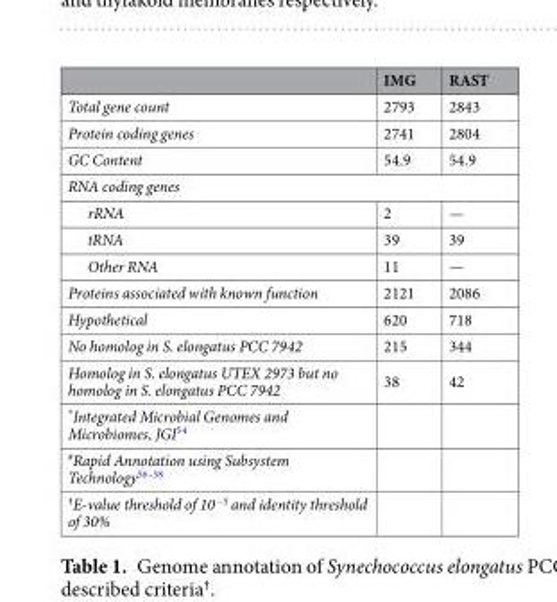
<table><thead><tr><td></td><td>IMG</td><td>RAST</td></tr></thead><tbody><tr><td>Total gene count</td><td>2793</td><td>2843</td></tr><tr><td>Protein coding genes</td><td>2741</td><td>2804</td></tr><tr><td>GC Content</td><td>54.9</td><td>54.9</td></tr><tr><td colspan="3">RNA coding genes</td></tr><tr><td>rRNA</td><td>2</td><td>—</td></tr><tr><td>tRNA</td><td>39</td><td>39</td></tr><tr><td>Other RNA</td><td>11</td><td>—</td></tr><tr><td>Proteins associated with known function</td><td>2121</td><td>2086</td></tr><tr><td>Hypothetical</td><td>620</td><td>718</td></tr><tr><td>No homolog in S. elongatus PCC 7942</td><td>215</td><td>344</td></tr><tr><td>Homolog in S. elongatus UTEX 2973 but no homolog in S. elongatus PCC 7942</td><td>38</td><td>42</td></tr><tr><td colspan="3">*Integrated Microbial Genomes and Microbiomes, JGI<sup>54</sup></td></tr><tr><td colspan="3"><sup>#</sup>Rapid Annotation using Subsystem Technology<sup>56–58</sup></td></tr><tr><td><sup>†</sup>E-value threshold of 10<sup>−5</sup> and identity threshold of 30%</td><td></td><td></td></tr></tbody></table>